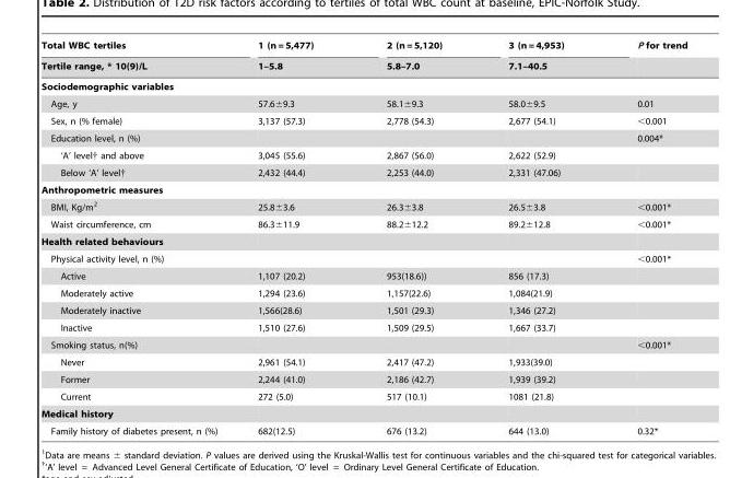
<table><thead><tr><td rowspan="2">Total WBC tertiles Tertile range, * 10(9)/L</td><td rowspan="2">1 (n = 5,477) 1–5.8</td><td rowspan="2">2 (n = 5,120) 5.8–7.0</td><td rowspan="2">3 (n = 4,953) 7.1–40.5</td><td rowspan="2">P for trend</td></tr><tr></tr></thead><tbody><tr><td colspan="5">Sociodemographic variables</td></tr><tr><td>Age, y</td><td>57.6±9.3</td><td>58.1±9.3</td><td>58.0±9.5</td><td>0.01</td></tr><tr><td>Sex, n (% female)</td><td>3,137 (57.3)</td><td>2,778 (54.3)</td><td>2,677 (54.1)</td><td>&lt;0.001</td></tr><tr><td>Education level, n (%)</td><td></td><td></td><td></td><td>0.004*</td></tr><tr><td>‘A’ level† and above</td><td>3,045 (55.6)</td><td>2,867 (56.0)</td><td>2,622 (52.9)</td><td></td></tr><tr><td>Below ‘A’ level†</td><td>2,432 (44.4)</td><td>2,253 (44.0)</td><td>2,331 (47.06)</td><td></td></tr><tr><td colspan="5">Anthropometric measures</td></tr><tr><td>BMI, Kg/m<sup>2</sup></td><td>25.8±3.6</td><td>26.3±3.8</td><td>26.5±3.8</td><td>&lt;0.001*</td></tr><tr><td>Waist circumference, cm</td><td>86.3±11.9</td><td>88.2±12.2</td><td>89.2±12.8</td><td>&lt;0.001*</td></tr><tr><td colspan="5">Health related behaviours</td></tr><tr><td>Physical activity level, n (%)</td><td></td><td></td><td></td><td>&lt;0.001*</td></tr><tr><td>Active</td><td>1,107 (20.2)</td><td>953(18.6))</td><td>856 (17.3)</td><td></td></tr><tr><td>Moderately active</td><td>1,294 (23.6)</td><td>1,157(22.6)</td><td>1,084(21.9)</td><td></td></tr><tr><td>Moderately inactive</td><td>1,566(28.6)</td><td>1,501 (29.3)</td><td>1,346 (27.2)</td><td></td></tr><tr><td>Inactive</td><td>1,510 (27.6)</td><td>1,509 (29.5)</td><td>1,667 (33.7)</td><td></td></tr><tr><td>Smoking status, n(%)</td><td></td><td></td><td></td><td>&lt;0.001*</td></tr><tr><td>Never</td><td>2,961 (54.1)</td><td>2,417 (47.2)</td><td>1,933(39.0)</td><td></td></tr><tr><td>Former</td><td>2,244 (41.0)</td><td>2,186 (42.7)</td><td>1,939 (39.2)</td><td></td></tr><tr><td>Current</td><td>272 (5.0)</td><td>517 (10.1)</td><td>1081 (21.8)</td><td></td></tr><tr><td colspan="5">Medical history</td></tr><tr><td>Family history of diabetes present, n (%)</td><td>682(12.5)</td><td>676 (13.2)</td><td>644 (13.0)</td><td>0.32*</td></tr></tbody></table>